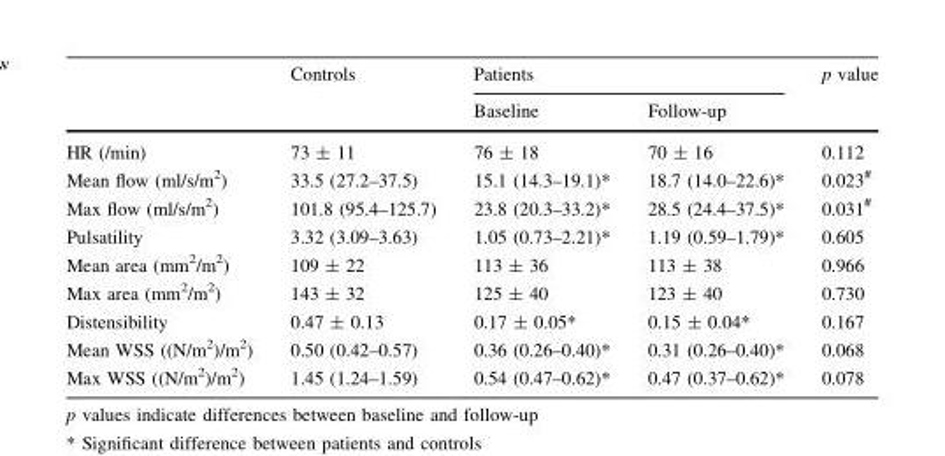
<table><thead><tr><td rowspan="2"></td><td rowspan="2">Controls</td><td colspan="2">Patients</td><td rowspan="2">p value</td></tr><tr><td>Baseline</td><td>Follow-up</td></tr></thead><tbody><tr><td>HR (/min)</td><td>73 ± 11</td><td>76 ± 18</td><td>70 ± 16</td><td>0.112</td></tr><tr><td>Mean flow (ml/s/m<sup>2</sup>)</td><td>33.5 (27.2–37.5)</td><td>15.1 (14.3–19.1)*</td><td>18.7 (14.0–22.6)*</td><td>0.023<sup>#</sup></td></tr><tr><td>Max flow (ml/s/m<sup>2</sup>)</td><td>101.8 (95.4–125.7)</td><td>23.8 (20.3–33.2)*</td><td>28.5 (24.4–37.5)*</td><td>0.031<sup>#</sup></td></tr><tr><td>Pulsatility</td><td>3.32 (3.09–3.63)</td><td>1.05 (0.73–2.21)*</td><td>1.19 (0.59–1.79)*</td><td>0.605</td></tr><tr><td>Mean area (mm<sup>2</sup>/m<sup>2</sup>)</td><td>109 ± 22</td><td>113 ± 36</td><td>113 ± 38</td><td>0.966</td></tr><tr><td>Max area (mm<sup>2</sup>/m<sup>2</sup>)</td><td>143 ± 32</td><td>125 ± 40</td><td>123 ± 40</td><td>0.730</td></tr><tr><td>Distensibility</td><td>0.47 ± 0.13</td><td>0.17 ± 0.05*</td><td>0.15 ± 0.04*</td><td>0.167</td></tr><tr><td>Mean WSS ((N/m<sup>2</sup>)/m<sup>2</sup>)</td><td>0.50 (0.42–0.57)</td><td>0.36 (0.26–0.40)*</td><td>0.31 (0.26–0.40)*</td><td>0.068</td></tr><tr><td>Max WSS ((N/m<sup>2</sup>)/m<sup>2</sup>)</td><td>1.45 (1.24–1.59)</td><td>0.54 (0.47–0.62)*</td><td>0.47 (0.37–0.62)*</td><td>0.078</td></tr></tbody></table>